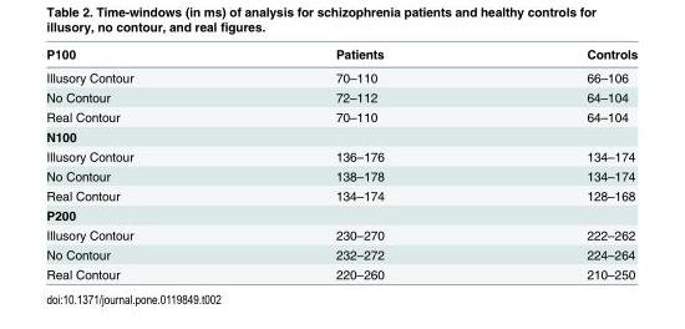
<table><thead><tr><td>P100</td><td>Patients</td><td>Controls</td></tr></thead><tbody><tr><td>Illusory Contour</td><td>70–110</td><td>66–106</td></tr><tr><td>No Contour</td><td>72–112</td><td>64–104</td></tr><tr><td>Real Contour</td><td>70–110</td><td>64–104</td></tr><tr><td colspan="3">N100</td></tr><tr><td>Illusory Contour</td><td>136–176</td><td>134–174</td></tr><tr><td>No Contour</td><td>138–178</td><td>134–174</td></tr><tr><td>Real Contour</td><td>134–174</td><td>128–168</td></tr><tr><td colspan="3">P200</td></tr><tr><td>Illusory Contour</td><td>230–270</td><td>222–262</td></tr><tr><td>No Contour</td><td>232–272</td><td>224–264</td></tr><tr><td>Real Contour</td><td>220–260</td><td>210–250</td></tr></tbody></table>